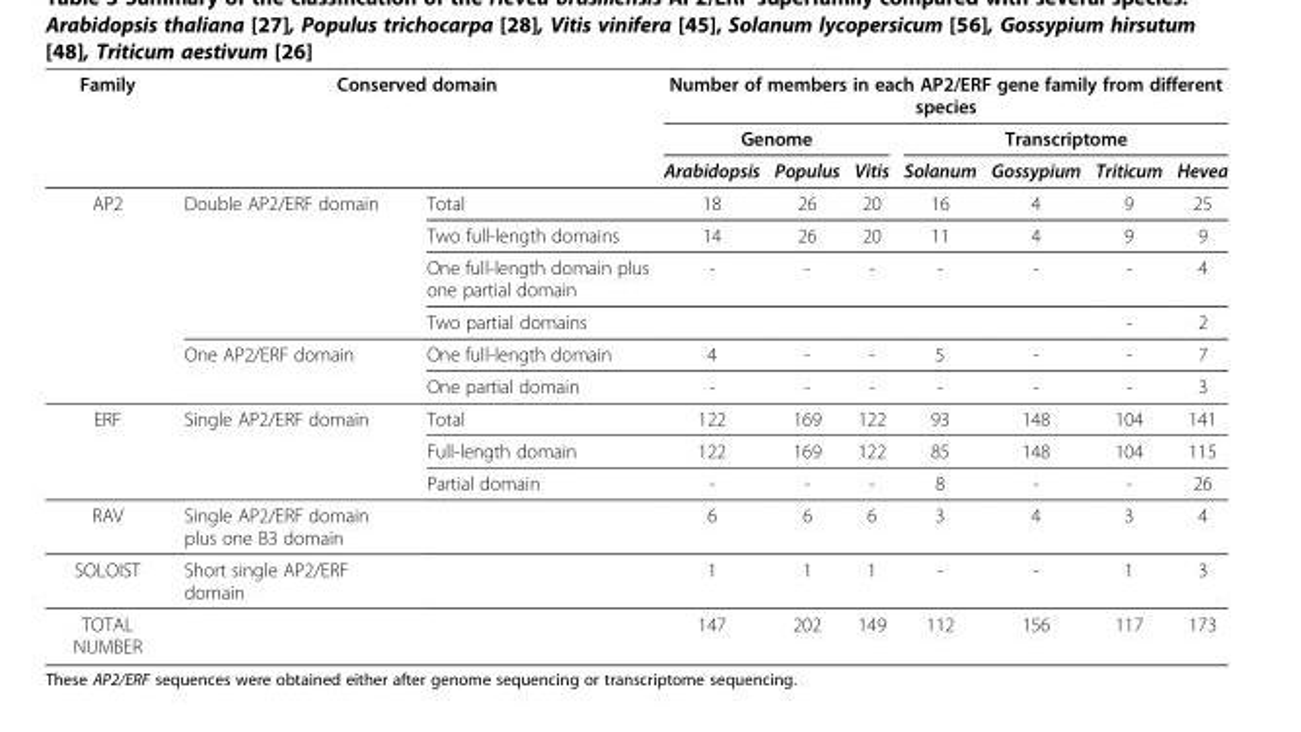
<table><thead><tr><td rowspan="3">Family</td><td colspan="2">Conserved domain</td><td colspan="7">Number of members in each AP2/ERF gene family from different species</td></tr><tr><td rowspan="2"></td><td rowspan="2"></td><td colspan="3">Genome</td><td colspan="4">Transcriptome</td></tr><tr><td>Arabidopsis</td><td>Populus</td><td>Vitis</td><td>Solanum</td><td>Gossypium</td><td>Triticum</td><td>Hevea</td></tr></thead><tbody><tr><td rowspan="6">AP2</td><td>Double AP2/ERF domain</td><td>Total</td><td>18</td><td>26</td><td>20</td><td>16</td><td>4</td><td>9</td><td>25</td></tr><tr><td></td><td>Two full-length domains</td><td>14</td><td>26</td><td>20</td><td>11</td><td>4</td><td>9</td><td>9</td></tr><tr><td></td><td>One full-length domain plus one partial domain</td><td>-</td><td>-</td><td>-</td><td>-</td><td>-</td><td>-</td><td>4</td></tr><tr><td></td><td>Two partial domains</td><td></td><td></td><td></td><td></td><td></td><td>-</td><td>2</td></tr><tr><td>One AP2/ERF domain</td><td>One full-length domain</td><td>4</td><td>-</td><td>-</td><td>5</td><td>-</td><td>-</td><td>7</td></tr><tr><td></td><td>One partial domain</td><td>-</td><td>-</td><td>-</td><td>-</td><td>-</td><td>-</td><td>3</td></tr><tr><td rowspan="3">ERF</td><td>Single AP2/ERF domain</td><td>Total</td><td>122</td><td>169</td><td>122</td><td>93</td><td>148</td><td>104</td><td>141</td></tr><tr><td></td><td>Full-length domain</td><td>122</td><td>169</td><td>122</td><td>85</td><td>148</td><td>104</td><td>115</td></tr><tr><td></td><td>Partial domain</td><td>-</td><td>-</td><td>-</td><td>8</td><td>-</td><td>-</td><td>26</td></tr><tr><td>RAV</td><td>Single AP2/ERF domain plus one B3 domain</td><td></td><td>6</td><td>6</td><td>6</td><td>3</td><td>4</td><td>3</td><td>4</td></tr><tr><td>SOLOIST</td><td>Short single AP2/ERF domain</td><td></td><td>1</td><td>1</td><td>1</td><td>-</td><td>-</td><td>1</td><td>3</td></tr><tr><td>TOTAL NUMBER</td><td></td><td></td><td>147</td><td>202</td><td>149</td><td>112</td><td>156</td><td>117</td><td>173</td></tr></tbody></table>